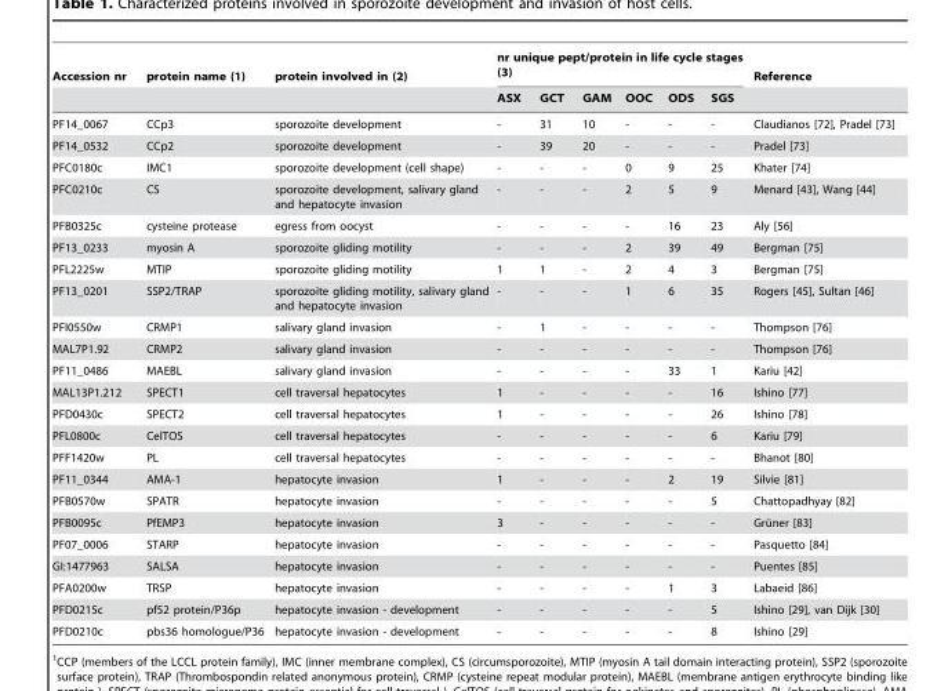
<table><thead><tr><td rowspan="2">Accession nr</td><td rowspan="2">protein name (1)</td><td rowspan="2">protein involved in (2)</td><td colspan="6">nr unique pept/protein in life cycle stages (3)</td><td rowspan="2">Reference</td></tr><tr><td>ASX</td><td>GCT</td><td>GAM</td><td>OOC</td><td>ODS</td><td>SGS</td></tr></thead><tbody><tr><td>PF14_0067</td><td>CCp3</td><td>sporozoite development</td><td>-</td><td>31</td><td>10</td><td>-</td><td>-</td><td>-</td><td>Claudianos [72], Pradel [73]</td></tr><tr><td>PF14_0532</td><td>CCp2</td><td>sporozoite development</td><td>-</td><td>39</td><td>20</td><td>-</td><td>-</td><td>-</td><td>Pradel [73]</td></tr><tr><td>PFC0180c</td><td>IMC1</td><td>sporozoite development (cell shape)</td><td>-</td><td>-</td><td>-</td><td>0</td><td>9</td><td>25</td><td>Khater [74]</td></tr><tr><td>PFC0210c</td><td>CS</td><td>sporozoite development, salivary gland and hepatocyte invasion</td><td>-</td><td>-</td><td>-</td><td>2</td><td>5</td><td>9</td><td>Menard [43], Wang [44]</td></tr><tr><td>PFB0325c</td><td>cysteine protease</td><td>egress from oocyst</td><td>-</td><td>-</td><td>-</td><td>-</td><td>16</td><td>23</td><td>Aly [56]</td></tr><tr><td>PF13_0233</td><td>myosin A</td><td>sporozoite gliding motility</td><td>-</td><td>-</td><td>-</td><td>2</td><td>39</td><td>49</td><td>Bergman [75]</td></tr><tr><td>PFL2225w</td><td>MTIP</td><td>sporozoite gliding motility</td><td>1</td><td>1</td><td>-</td><td>2</td><td>4</td><td>3</td><td>Bergman [75]</td></tr><tr><td>PF13_0201</td><td>SSP2/TRAP</td><td>sporozoite gliding motility, salivary gland and hepatocyte invasion</td><td>-</td><td>-</td><td>-</td><td>1</td><td>6</td><td>35</td><td>Rogers [45], Sultan [46]</td></tr><tr><td>PFI0550w</td><td>CRMP1</td><td>salivary gland invasion</td><td>-</td><td>1</td><td>-</td><td>-</td><td>-</td><td>-</td><td>Thompson [76]</td></tr><tr><td>MAL7P1.92</td><td>CRMP2</td><td>salivary gland invasion</td><td>-</td><td>-</td><td>-</td><td>-</td><td>-</td><td>-</td><td>Thompson [76]</td></tr><tr><td>PF11_0486</td><td>MAEBL</td><td>salivary gland invasion</td><td>-</td><td>-</td><td>-</td><td>-</td><td>33</td><td>1</td><td>Kariu [42]</td></tr><tr><td>MAL13P1.212</td><td>SPECT1</td><td>cell traversal hepatocytes</td><td>1</td><td>-</td><td>-</td><td>-</td><td>-</td><td>16</td><td>Ishino [77]</td></tr><tr><td>PFD0430c</td><td>SPECT2</td><td>cell traversal hepatocytes</td><td>1</td><td>-</td><td>-</td><td>-</td><td>-</td><td>26</td><td>Ishino [78]</td></tr><tr><td>PFL0800c</td><td>CelTOS</td><td>cell traversal hepatocytes</td><td>-</td><td>-</td><td>-</td><td>-</td><td>-</td><td>6</td><td>Kariu [79]</td></tr><tr><td>PFF1420w</td><td>PL</td><td>cell traversal hepatocytes</td><td>-</td><td>-</td><td>-</td><td>-</td><td>-</td><td>-</td><td>Bhanot [80]</td></tr><tr><td>PF11_0344</td><td>AMA-1</td><td>hepatocyte invasion</td><td>1</td><td>-</td><td>-</td><td>-</td><td>2</td><td>19</td><td>Silvie [81]</td></tr><tr><td>PFB0570w</td><td>SPATR</td><td>hepatocyte invasion</td><td>-</td><td>-</td><td>-</td><td>-</td><td>-</td><td>5</td><td>Chattopadhyay [82]</td></tr><tr><td>PFB0095c</td><td>PfEMP3</td><td>hepatocyte invasion</td><td>3</td><td>-</td><td>-</td><td>-</td><td>-</td><td>-</td><td>Gru¨ner [83]</td></tr><tr><td>PF07_0006</td><td>STARP</td><td>hepatocyte invasion</td><td>-</td><td>-</td><td>-</td><td>-</td><td>-</td><td>-</td><td>Pasquetto [84]</td></tr><tr><td>GI:1477963</td><td>SALSA</td><td>hepatocyte invasion</td><td>-</td><td>-</td><td>-</td><td>-</td><td>-</td><td>-</td><td>Puentes [85]</td></tr><tr><td>PFA0200w</td><td>TRSP</td><td>hepatocyte invasion</td><td>-</td><td>-</td><td>-</td><td>-</td><td>1</td><td>3</td><td>Labaeid [86]</td></tr><tr><td>PFD0215c</td><td>pf52 protein/P36p</td><td>hepatocyte invasion - development</td><td>-</td><td>-</td><td>-</td><td>-</td><td>-</td><td>5</td><td>Ishino [29], van Dijk [30]</td></tr><tr><td>PFD0210c</td><td>pbs36 homologue/P36</td><td>hepatocyte invasion - development</td><td>-</td><td>-</td><td>-</td><td>-</td><td>-</td><td>8</td><td>Ishino [29]</td></tr></tbody></table>